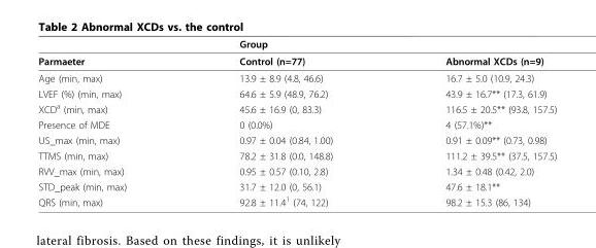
<table><thead><tr><td></td><td>Group</td><td></td></tr></thead><tbody><tr><td>Parmaeter</td><td>Control (n=77)</td><td>Abnormal XCDs (n=9)</td></tr><tr><td>Age (min, max)</td><td>13.9 ± 8.9 (4.8, 46.6)</td><td>16.7 ± 5.0 (10.9, 24.3)</td></tr><tr><td>LVEF (%) (min, max)</td><td>64.6 ± 5.9 (48.9, 76.2)</td><td>43.9 ± 16.7** (17.3, 61.9)</td></tr><tr><td>XCD<sup>a</sup> (min, max)</td><td>45.6 ± 16.9 (0, 83.3)</td><td>116.5 ± 20.5** (93.8, 157.5)</td></tr><tr><td>Presence of MDE</td><td>0 (0.0%)</td><td>4 (57.1%)**</td></tr><tr><td>US_max (min, max)</td><td>0.97 ± 0.04 (0.84, 1.00)</td><td>0.91 ± 0.09** (0.73, 0.98)</td></tr><tr><td>TTMS (min, max)</td><td>78.2 ± 31.8 (0.0, 148.8)</td><td>111.2 ± 39.5** (37.5, 157.5)</td></tr><tr><td>RVV_max (min, max)</td><td>0.95 ± 0.57 (0.10, 2.8)</td><td>1.34 ± 0.48 (0.42, 2.0)</td></tr><tr><td>STD_peak (min, max)</td><td>31.7 ± 12.0 (0, 56.1)</td><td>47.6 ± 18.1**</td></tr><tr><td>QRS (min, max)</td><td>92.8 ± 11.4<sup>1</sup> (74, 122)</td><td>98.2 ± 15.3 (86, 134)</td></tr></tbody></table>